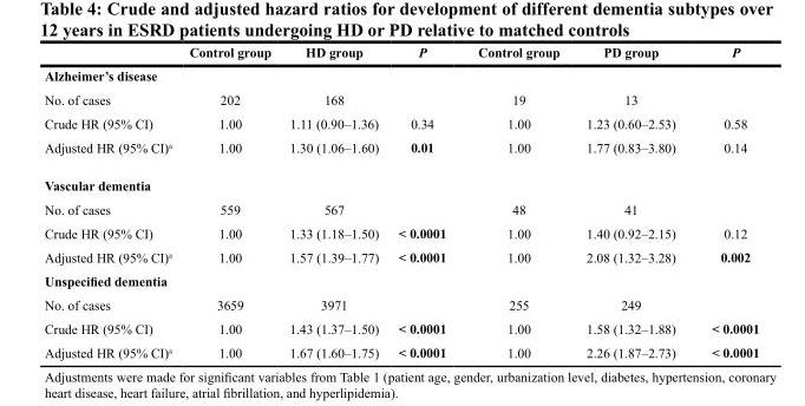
<table><thead><tr><td></td><td>Control group</td><td>HD group</td><td>P</td><td>Control group</td><td>PD group</td><td>P</td></tr></thead><tbody><tr><td colspan="7">Alzheimer’s disease</td></tr><tr><td>No. of cases</td><td>202</td><td>168</td><td></td><td>19</td><td>13</td><td></td></tr><tr><td>Crude HR (95% CI)</td><td>1.00</td><td>1.11 (0.90–1.36)</td><td>0.34</td><td>1.00</td><td>1.23 (0.60–2.53)</td><td>0.58</td></tr><tr><td>Adjusted HR (95% CI)<sup>a</sup></td><td>1.00</td><td>1.30 (1.06–1.60)</td><td>0.01</td><td>1.00</td><td>1.77 (0.83–3.80)</td><td>0.14</td></tr><tr><td colspan="7">Vascular dementia</td></tr><tr><td>No. of cases</td><td>559</td><td>567</td><td></td><td>48</td><td>41</td><td></td></tr><tr><td>Crude HR (95% CI)</td><td>1.00</td><td>1.33 (1.18–1.50)</td><td>&lt; 0.0001</td><td>1.00</td><td>1.40 (0.92–2.15)</td><td>0.12</td></tr><tr><td>Adjusted HR (95% CI)<sup>a</sup></td><td>1.00</td><td>1.57 (1.39–1.77)</td><td>&lt; 0.0001</td><td>1.00</td><td>2.08 (1.32–3.28)</td><td>0.002</td></tr><tr><td colspan="7">Unspecified dementia</td></tr><tr><td>No. of cases</td><td>3659</td><td>3971</td><td></td><td>255</td><td>249</td><td></td></tr><tr><td>Crude HR (95% CI)</td><td>1.00</td><td>1.43 (1.37–1.50)</td><td>&lt; 0.0001</td><td>1.00</td><td>1.58 (1.32–1.88)</td><td>&lt; 0.0001</td></tr><tr><td>Adjusted HR (95% CI)<sup>a</sup></td><td>1.00</td><td>1.67 (1.60–1.75)</td><td>&lt; 0.0001</td><td>1.00</td><td>2.26 (1.87–2.73)</td><td>&lt; 0.0001</td></tr></tbody></table>